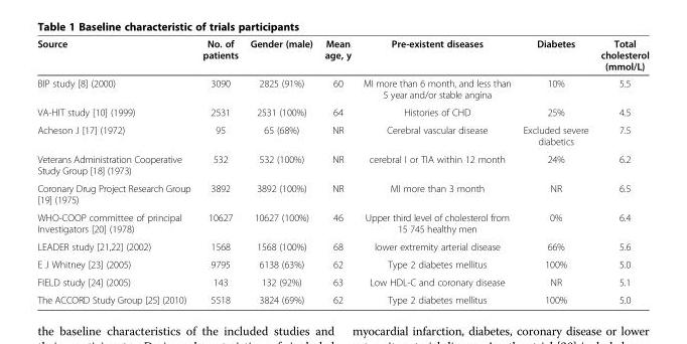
<table><thead><tr><td>Source</td><td>No. of patients</td><td>Gender (male)</td><td>Mean age, y</td><td>Pre-existent diseases</td><td>Diabetes</td><td>Total cholesterol (mmol/L)</td></tr></thead><tbody><tr><td>BIP study [8] (2000)</td><td>3090</td><td>2825 (91%)</td><td>60</td><td>MI more than 6 month, and less than 5 year and/or stable angina</td><td>10%</td><td>5.5</td></tr><tr><td>VA-HIT study [10] (1999)</td><td>2531</td><td>2531 (100%)</td><td>64</td><td>Histories of CHD</td><td>25%</td><td>4.5</td></tr><tr><td>Acheson J [17] (1972)</td><td>95</td><td>65 (68%)</td><td>NR</td><td>Cerebral vascular disease</td><td>Excluded severe diabetics</td><td>7.5</td></tr><tr><td>Veterans Administration Cooperative Study Group [18] (1973)</td><td>532</td><td>532 (100%)</td><td>NR</td><td>cerebral I or TIA within 12 month</td><td>24%</td><td>6.2</td></tr><tr><td>Coronary Drug Project Research Group [19] (1975)</td><td>3892</td><td>3892 (100%)</td><td>NR</td><td>MI more than 3 month</td><td>NR</td><td>6.5</td></tr><tr><td>WHO-COOP committee of principal Investigators [20] (1978)</td><td>10627</td><td>10627 (100%)</td><td>46</td><td>Upper third level of cholesterol from 15 745 healthy men</td><td>0%</td><td>6.4</td></tr><tr><td>LEADER study [21,22] (2002)</td><td>1568</td><td>1568 (100%)</td><td>68</td><td>lower extremity arterial disease</td><td>66%</td><td>5.6</td></tr><tr><td>E J Whitney [23] (2005)</td><td>9795</td><td>6138 (63%)</td><td>62</td><td>Type 2 diabetes mellitus</td><td>100%</td><td>5.0</td></tr><tr><td>FIELD study [24] (2005)</td><td>143</td><td>132 (92%)</td><td>63</td><td>Low HDL-C and coronary disease</td><td>NR</td><td>5.1</td></tr><tr><td>The ACCORD Study Group [25] (2010)</td><td>5518</td><td>3824 (69%)</td><td>62</td><td>Type 2 diabetes mellitus</td><td>100%</td><td>5.0</td></tr></tbody></table>